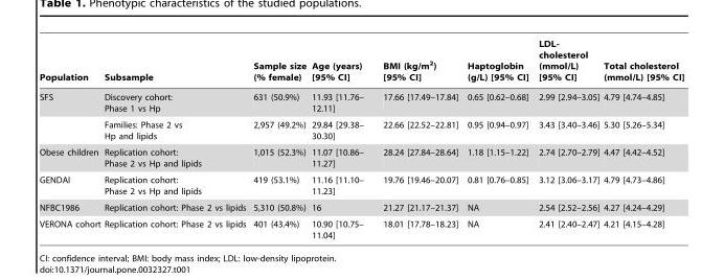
<table><thead><tr><td>Population</td><td>Subsample</td><td>Sample size (% female)</td><td>Age (years) [95% CI]</td><td>BMI (kg/m<sup>2</sup>) [95% CI]</td><td>Haptoglobin (g/L) [95% CI]</td><td>LDL- cholesterol (mmol/L) [95% CI]</td><td>Total cholesterol (mmol/L) [95% CI]</td></tr></thead><tbody><tr><td rowspan="2">SFS</td><td>Discovery cohort: Phase 1 vs Hp</td><td>631 (50.9%)</td><td>11.93 [11.76– 12.11]</td><td>17.66 [17.49–17.84]</td><td>0.65 [0.62–0.68]</td><td>2.99 [2.94–3.05]</td><td>4.79 [4.74–4.85]</td></tr><tr><td>Families: Phase 2 vs Hp and lipids</td><td>2,957 (49.2%)</td><td>29.84 [29.38– 30.30]</td><td>22.66 [22.52–22.81]</td><td>0.95 [0.94–0.97]</td><td>3.43 [3.40–3.46]</td><td>5.30 [5.26–5.34]</td></tr><tr><td>Obese children</td><td>Replication cohort: Phase 2 vs Hp and lipids</td><td>1,015 (52.3%)</td><td>11.07 [10.86– 11.27]</td><td>28.24 [27.84–28.64]</td><td>1.18 [1.15–1.22]</td><td>2.74 [2.70–2.79]</td><td>4.47 [4.42–4.52]</td></tr><tr><td>GENDAI</td><td>Replication cohort: Phase 2 vs Hp and lipids</td><td>419 (53.1%)</td><td>11.16 [11.10– 11.23]</td><td>19.76 [19.46–20.07]</td><td>0.81 [0.76–0.85]</td><td>3.12 [3.06–3.17]</td><td>4.79 [4.73–4.86]</td></tr><tr><td>NFBC1986</td><td>Replication cohort: Phase 2 vs lipids</td><td>5,310 (50.8%)</td><td>16</td><td>21.27 [21.17–21.37]</td><td>NA</td><td>2.54 [2.52–2.56]</td><td>4.27 [4.24–4.29]</td></tr><tr><td>VERONA cohort</td><td>Replication cohort: Phase 2 vs lipids</td><td>401 (43.4%)</td><td>10.90 [10.75– 11.04]</td><td>18.01 [17.78–18.23]</td><td>NA</td><td>2.41 [2.40–2.47]</td><td>4.21 [4.15–4.28]</td></tr></tbody></table>